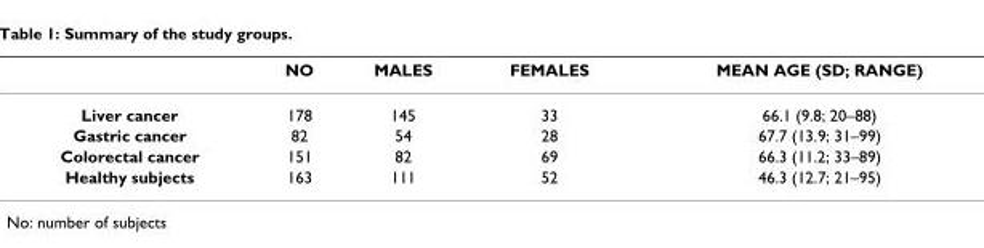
<table><thead><tr><td></td><td>NO</td><td>MALES</td><td>FEMALES</td><td>MEAN AGE (SD; RANGE)</td></tr></thead><tbody><tr><td>Liver cancer</td><td>178</td><td>145</td><td>33</td><td>66.1 (9.8; 20–88)</td></tr><tr><td>Gastric cancer</td><td>82</td><td>54</td><td>28</td><td>67.7 (13.9; 31–99)</td></tr><tr><td>Colorectal cancer</td><td>151</td><td>82</td><td>69</td><td>66.3 (11.2; 33–89)</td></tr><tr><td>Healthy subjects</td><td>163</td><td>111</td><td>52</td><td>46.3 (12.7; 21–95)</td></tr></tbody></table>